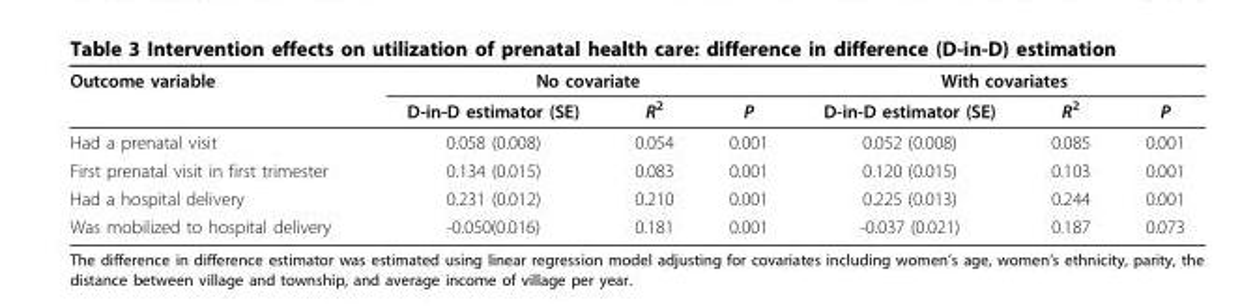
<table><thead><tr><td rowspan="2">Outcome variable</td><td colspan="3">No covariate</td><td colspan="3">With covariates</td></tr><tr><td>D-in-D estimator (SE)</td><td>R<sup>2</sup></td><td>P</td><td>D-in-D estimator (SE)</td><td>R<sup>2</sup></td><td>P</td></tr></thead><tbody><tr><td>Had a prenatal visit</td><td>0.058 (0.008)</td><td>0.054</td><td>0.001</td><td>0.052 (0.008)</td><td>0.085</td><td>0.001</td></tr><tr><td>First prenatal visit in first trimester</td><td>0.134 (0.015)</td><td>0.083</td><td>0.001</td><td>0.120 (0.015)</td><td>0.103</td><td>0.001</td></tr><tr><td>Had a hospital delivery</td><td>0.231 (0.012)</td><td>0.210</td><td>0.001</td><td>0.225 (0.013)</td><td>0.244</td><td>0.001</td></tr><tr><td>Was mobilized to hospital delivery</td><td>-0.050(0.016)</td><td>0.181</td><td>0.001</td><td>-0.037 (0.021)</td><td>0.187</td><td>0.073</td></tr></tbody></table>